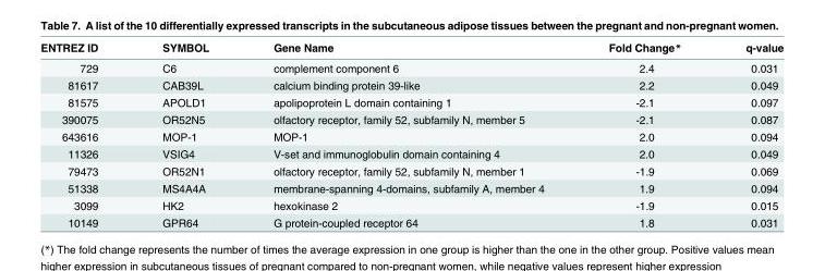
<table><thead><tr><td>ENTREZ ID</td><td>SYMBOL</td><td>Gene Name</td><td>Fold Change*</td><td>q-value</td></tr></thead><tbody><tr><td>729</td><td>C6</td><td>complement component 6</td><td>2.4</td><td>0.031</td></tr><tr><td>81617</td><td>CAB39L</td><td>calcium binding protein 39-like</td><td>2.2</td><td>0.049</td></tr><tr><td>81575</td><td>APOLD1</td><td>apolipoprotein L domain containing 1</td><td>-2.1</td><td>0.097</td></tr><tr><td>390075</td><td>OR52N5</td><td>olfactory receptor, family 52, subfamily N, member 5</td><td>-2.1</td><td>0.087</td></tr><tr><td>643616</td><td>MOP-1</td><td>MOP-1</td><td>2.0</td><td>0.094</td></tr><tr><td>11326</td><td>VSIG4</td><td>V-set and immunoglobulin domain containing 4</td><td>2.0</td><td>0.049</td></tr><tr><td>79473</td><td>OR52N1</td><td>olfactory receptor, family 52, subfamily N, member 1</td><td>-1.9</td><td>0.069</td></tr><tr><td>51338</td><td>MS4A4A</td><td>membrane-spanning 4-domains, subfamily A, member 4</td><td>1.9</td><td>0.094</td></tr><tr><td>3099</td><td>HK2</td><td>hexokinase 2</td><td>-1.9</td><td>0.015</td></tr><tr><td>10149</td><td>GPR64</td><td>G protein-coupled receptor 64</td><td>1.8</td><td>0.031</td></tr></tbody></table>